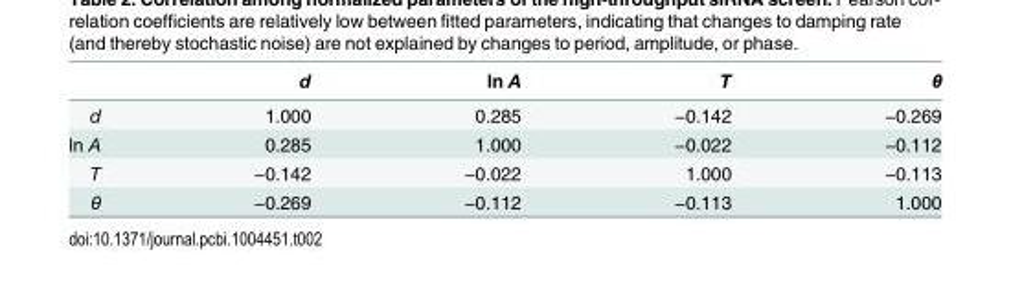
<table><thead><tr><td></td><td>d</td><td>ln A</td><td>T</td><td>θ</td></tr></thead><tbody><tr><td>d</td><td>1.000</td><td>0.285</td><td>−0.142</td><td>−0.269</td></tr><tr><td>ln A</td><td>0.285</td><td>1.000</td><td>−0.022</td><td>−0.112</td></tr><tr><td>T</td><td>−0.142</td><td>−0.022</td><td>1.000</td><td>−0.113</td></tr><tr><td>θ</td><td>−0.269</td><td>−0.112</td><td>−0.113</td><td>1.000</td></tr></tbody></table>